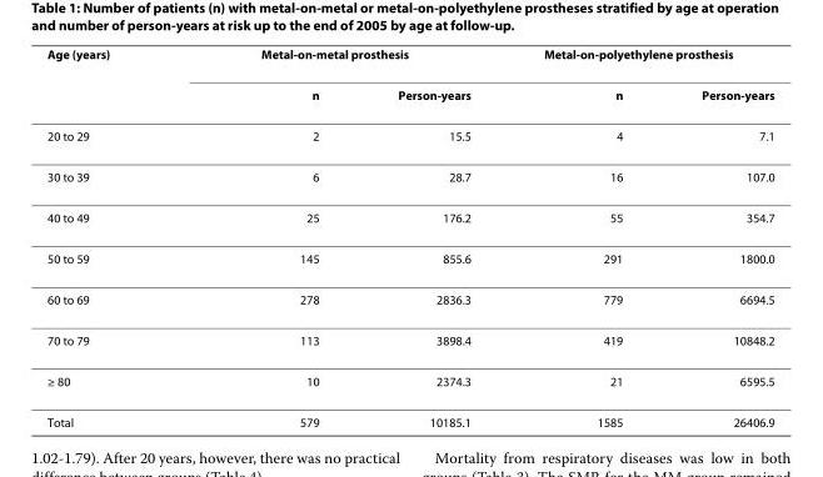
<table><thead><tr><td rowspan="2">Age (years)</td><td colspan="2">Metal-on-metal prosthesis</td><td colspan="2">Metal-on-polyethylene prosthesis</td></tr><tr><td>n</td><td>Person-years</td><td>n</td><td>Person-years</td></tr></thead><tbody><tr><td>20 to 29</td><td>2</td><td>15.5</td><td>4</td><td>7.1</td></tr><tr><td>30 to 39</td><td>6</td><td>28.7</td><td>16</td><td>107.0</td></tr><tr><td>40 to 49</td><td>25</td><td>176.2</td><td>55</td><td>354.7</td></tr><tr><td>50 to 59</td><td>145</td><td>855.6</td><td>291</td><td>1800.0</td></tr><tr><td>60 to 69</td><td>278</td><td>2836.3</td><td>779</td><td>6694.5</td></tr><tr><td>70 to 79</td><td>113</td><td>3898.4</td><td>419</td><td>10848.2</td></tr><tr><td>≥ 80</td><td>10</td><td>2374.3</td><td>21</td><td>6595.5</td></tr><tr><td>Total</td><td>579</td><td>10185.1</td><td>1585</td><td>26406.9</td></tr></tbody></table>